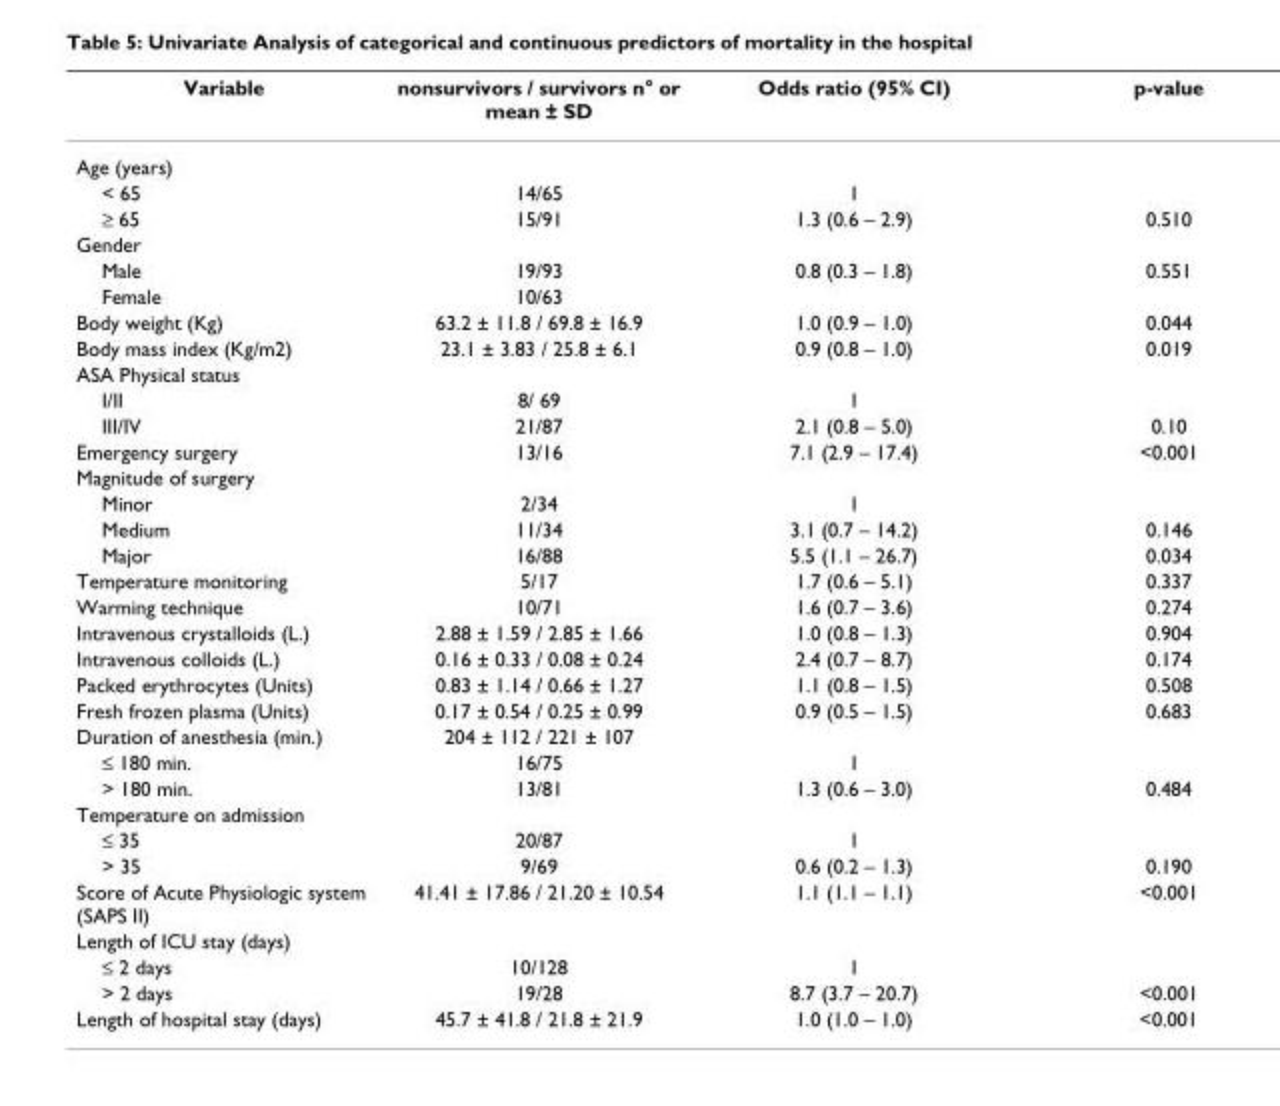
<table><thead><tr><td>Variable</td><td>nonsurvivors / survivors n° or mean ± SD</td><td>Odds ratio (95% CI)</td><td>p-value</td></tr></thead><tbody><tr><td colspan="4">Age (years)</td></tr><tr><td>&lt; 65</td><td>14/65</td><td>1</td><td></td></tr><tr><td>≥ 65</td><td>15/91</td><td>1.3 (0.6 – 2.9)</td><td>0.510</td></tr><tr><td colspan="4">Gender</td></tr><tr><td>Male</td><td>19/93</td><td>0.8 (0.3 – 1.8)</td><td>0.551</td></tr><tr><td>Female</td><td>10/63</td><td></td><td></td></tr><tr><td>Body weight (Kg)</td><td>63.2 ± 11.8 / 69.8 ± 16.9</td><td>1.0 (0.9 – 1.0)</td><td>0.044</td></tr><tr><td>Body mass index (Kg/m2)</td><td>23.1 ± 3.83 / 25.8 ± 6.1</td><td>0.9 (0.8 – 1.0)</td><td>0.019</td></tr><tr><td colspan="4">ASA Physical status</td></tr><tr><td>I/II</td><td>8/ 69</td><td>1</td><td></td></tr><tr><td>III/IV</td><td>21/87</td><td>2.1 (0.8 – 5.0)</td><td>0.10</td></tr><tr><td>Emergency surgery</td><td>13/16</td><td>7.1 (2.9 – 17.4)</td><td>&lt;0.001</td></tr><tr><td colspan="4">Magnitude of surgery</td></tr><tr><td>Minor</td><td>2/34</td><td>1</td><td></td></tr><tr><td>Medium</td><td>11/34</td><td>3.1 (0.7 – 14.2)</td><td>0.146</td></tr><tr><td>Major</td><td>16/88</td><td>5.5 (1.1 – 26.7)</td><td>0.034</td></tr><tr><td>Temperature monitoring</td><td>5/17</td><td>1.7 (0.6 – 5.1)</td><td>0.337</td></tr><tr><td>Warming technique</td><td>10/71</td><td>1.6 (0.7 – 3.6)</td><td>0.274</td></tr><tr><td>Intravenous crystalloids (L.)</td><td>2.88 ± 1.59 / 2.85 ± 1.66</td><td>1.0 (0.8 – 1.3)</td><td>0.904</td></tr><tr><td>Intravenous colloids (L.)</td><td>0.16 ± 0.33 / 0.08 ± 0.24</td><td>2.4 (0.7 – 8.7)</td><td>0.174</td></tr><tr><td>Packed erythrocytes (Units)</td><td>0.83 ± 1.14 / 0.66 ± 1.27</td><td>1.1 (0.8 – 1.5)</td><td>0.508</td></tr><tr><td>Fresh frozen plasma (Units)</td><td>0.17 ± 0.54 / 0.25 ± 0.99</td><td>0.9 (0.5 – 1.5)</td><td>0.683</td></tr><tr><td>Duration of anesthesia (min.)</td><td>204 ± 112 / 221 ± 107</td><td></td><td></td></tr><tr><td>≤ 180 min.</td><td>16/75</td><td>1</td><td></td></tr><tr><td>&gt; 180 min.</td><td>13/81</td><td>1.3 (0.6 – 3.0)</td><td>0.484</td></tr><tr><td colspan="4">Temperature on admission</td></tr><tr><td>≤ 35</td><td>20/87</td><td>1</td><td></td></tr><tr><td>&gt; 35</td><td>9/69</td><td>0.6 (0.2 – 1.3)</td><td>0.190</td></tr><tr><td>Score of Acute Physiologic system (SAPS II)</td><td>41.41 ± 17.86 / 21.20 ± 10.54</td><td>1.1 (1.1 – 1.1)</td><td>&lt;0.001</td></tr><tr><td colspan="4">Length of ICU stay (days)</td></tr><tr><td>≤ 2 days</td><td>10/128</td><td>1</td><td></td></tr><tr><td>&gt; 2 days</td><td>19/28</td><td>8.7 (3.7 – 20.7)</td><td>&lt;0.001</td></tr><tr><td>Length of hospital stay (days)</td><td>45.7 ± 41.8 / 21.8 ± 21.9</td><td>1.0 (1.0 – 1.0)</td><td>&lt;0.001</td></tr></tbody></table>